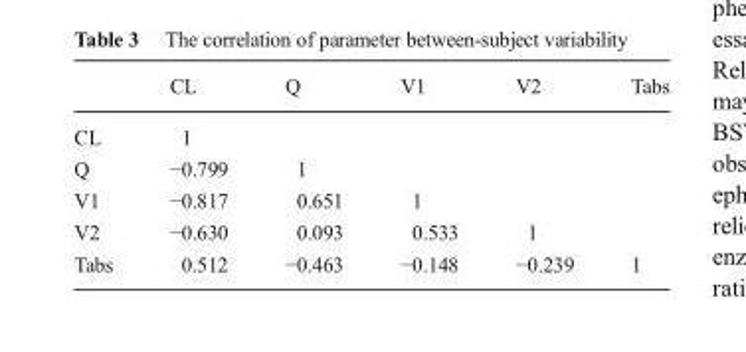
<table><thead><tr><td></td><td>CL</td><td>Q</td><td>V1</td><td>V2</td><td>Tabs</td></tr></thead><tbody><tr><td>CL</td><td>1</td><td></td><td></td><td></td><td></td></tr><tr><td>Q</td><td>−0.799</td><td>1</td><td></td><td></td><td></td></tr><tr><td>V1</td><td>−0.817</td><td>0.651</td><td>1</td><td></td><td></td></tr><tr><td>V2</td><td>−0.630</td><td>0.093</td><td>0.533</td><td>1</td><td></td></tr><tr><td>Tabs</td><td>0.512</td><td>−0.463</td><td>−0.148</td><td>−0.239</td><td>1</td></tr></tbody></table>